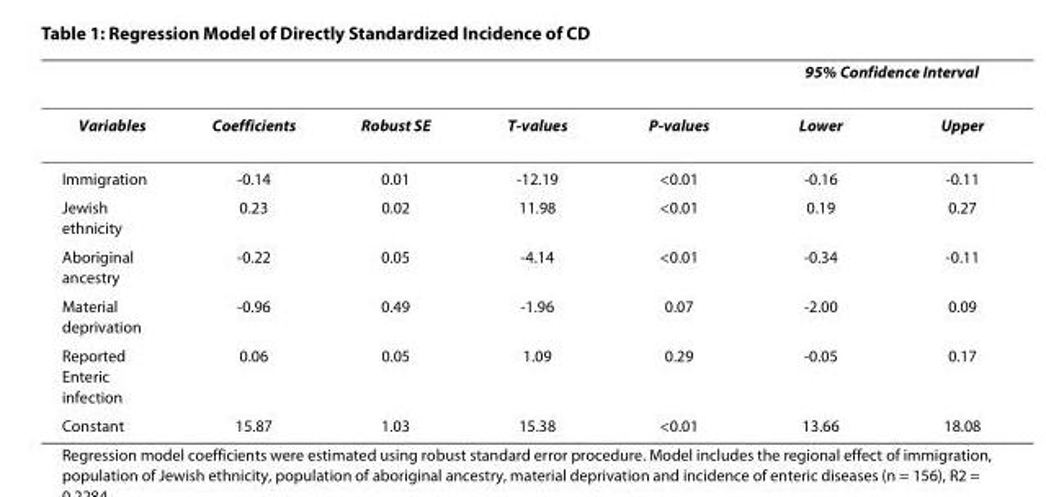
<table><thead><tr><td rowspan="2">Variables</td><td rowspan="2">Coefficients</td><td rowspan="2">Robust SE</td><td rowspan="2">T-values</td><td rowspan="2">P-values</td><td colspan="2">95% Confidence Interval</td></tr><tr><td>Lower</td><td>Upper</td></tr></thead><tbody><tr><td>Immigration</td><td>-0.14</td><td>0.01</td><td>-12.19</td><td>&lt;0.01</td><td>-0.16</td><td>-0.11</td></tr><tr><td>Jewish ethnicity</td><td>0.23</td><td>0.02</td><td>11.98</td><td>&lt;0.01</td><td>0.19</td><td>0.27</td></tr><tr><td>Aboriginal ancestry</td><td>-0.22</td><td>0.05</td><td>-4.14</td><td>&lt;0.01</td><td>-0.34</td><td>-0.11</td></tr><tr><td>Material deprivation</td><td>-0.96</td><td>0.49</td><td>-1.96</td><td>0.07</td><td>-2.00</td><td>0.09</td></tr><tr><td>Reported Enteric infection</td><td>0.06</td><td>0.05</td><td>1.09</td><td>0.29</td><td>-0.05</td><td>0.17</td></tr><tr><td>Constant</td><td>15.87</td><td>1.03</td><td>15.38</td><td>&lt;0.01</td><td>13.66</td><td>18.08</td></tr></tbody></table>